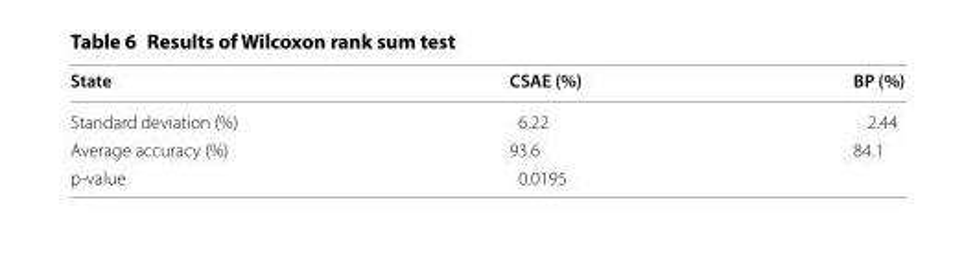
<table><thead><tr><td>State</td><td>CSAE (%)</td><td>BP (%)</td></tr></thead><tbody><tr><td>Standard deviation (%)</td><td>6.22</td><td>2.44</td></tr><tr><td>Average accuracy (%)</td><td>93.6</td><td>84.1</td></tr><tr><td>p-value</td><td colspan="2">0.0195</td></tr></tbody></table>